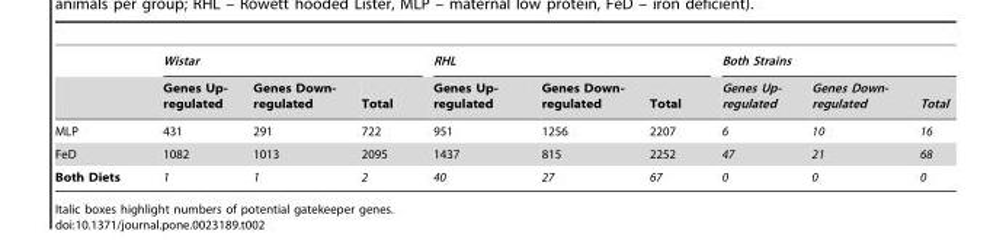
<table><thead><tr><td rowspan="2"></td><td colspan="3">Wistar</td><td colspan="3">RHL</td><td colspan="3">Both Strains</td></tr><tr><td>Genes Up- regulated</td><td>Genes Down- regulated</td><td>Total</td><td>Genes Up- regulated</td><td>Genes Down- regulated</td><td>Total</td><td>Genes Up- regulated</td><td>Genes Down- regulated</td><td>Total</td></tr></thead><tbody><tr><td>MLP</td><td>431</td><td>291</td><td>722</td><td>951</td><td>1256</td><td>2207</td><td>6</td><td>10</td><td>16</td></tr><tr><td>FeD</td><td>1082</td><td>1013</td><td>2095</td><td>1437</td><td>815</td><td>2252</td><td>47</td><td>21</td><td>68</td></tr><tr><td>Both Diets</td><td>1</td><td>1</td><td>2</td><td>40</td><td>27</td><td>67</td><td>0</td><td>0</td><td>0</td></tr></tbody></table>